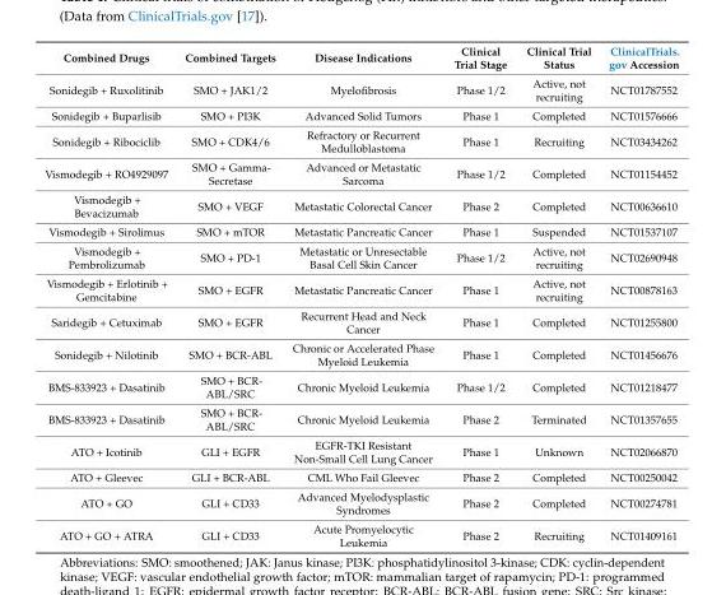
<table><thead><tr><td>Combined Drugs</td><td>Combined Targets</td><td>Disease Indications</td><td>Clinical Trial Stage</td><td>Clinical Trial Status</td><td>ClinicalTrials. gov Accession</td></tr></thead><tbody><tr><td>Sonidegib + Ruxolitinib</td><td>SMO + JAK1/2</td><td>Myelofibrosis</td><td>Phase 1/2</td><td>Active, not recruiting</td><td>NCT01787552</td></tr><tr><td>Sonidegib + Buparlisib</td><td>SMO + PI3K</td><td>Advanced Solid Tumors</td><td>Phase 1</td><td>Completed</td><td>NCT01576666</td></tr><tr><td>Sonidegib + Ribociclib</td><td>SMO + CDK4/6</td><td>Refractory or Recurrent Medulloblastoma</td><td>Phase 1</td><td>Recruiting</td><td>NCT03434262</td></tr><tr><td>Vismodegib + RO4929097</td><td>SMO + Gamma- Secretase</td><td>Advanced or Metastatic Sarcoma</td><td>Phase 1/2</td><td>Completed</td><td>NCT01154452</td></tr><tr><td>Vismodegib + Bevacizumab</td><td>SMO + VEGF</td><td>Metastatic Colorectal Cancer</td><td>Phase 2</td><td>Completed</td><td>NCT00636610</td></tr><tr><td>Vismodegib + Sirolimus</td><td>SMO + mTOR</td><td>Metastatic Pancreatic Cancer</td><td>Phase 1</td><td>Suspended</td><td>NCT01537107</td></tr><tr><td>Vismodegib + Pembrolizumab</td><td>SMO + PD-1</td><td>Metastatic or Unresectable Basal Cell Skin Cancer</td><td>Phase 1/2</td><td>Active, not recruiting</td><td>NCT02690948</td></tr><tr><td>Vismodegib + Erlotinib + Gemcitabine</td><td>SMO + EGFR</td><td>Metastatic Pancreatic Cancer</td><td>Phase 1</td><td>Active, not recruiting</td><td>NCT00878163</td></tr><tr><td>Saridegib + Cetuximab</td><td>SMO + EGFR</td><td>Recurrent Head and Neck Cancer</td><td>Phase 1</td><td>Completed</td><td>NCT01255800</td></tr><tr><td>Sonidegib + Nilotinib</td><td>SMO + BCR-ABL</td><td>Chronic or Accelerated Phase Myeloid Leukemia</td><td>Phase 1</td><td>Completed</td><td>NCT01456676</td></tr><tr><td>BMS-833923 + Dasatinib</td><td>SMO + BCR- ABL/SRC</td><td>Chronic Myeloid Leukemia</td><td>Phase 1/2</td><td>Completed</td><td>NCT01218477</td></tr><tr><td>BMS-833923 + Dasatinib</td><td>SMO + BCR- ABL/SRC</td><td>Chronic Myeloid Leukemia</td><td>Phase 2</td><td>Terminated</td><td>NCT01357655</td></tr><tr><td>ATO + Icotinib</td><td>GLI + EGFR</td><td>EGFR-TKI Resistant Non-Small Cell Lung Cancer</td><td>Phase 1</td><td>Unknown</td><td>NCT02066870</td></tr><tr><td>ATO + Gleevec</td><td>GLI + BCR-ABL</td><td>CML Who Fail Gleevec</td><td>Phase 2</td><td>Completed</td><td>NCT00250042</td></tr><tr><td>ATO + GO</td><td>GLI + CD33</td><td>Advanced Myelodysplastic Syndromes</td><td>Phase 2</td><td>Completed</td><td>NCT00274781</td></tr><tr><td>ATO + GO + ATRA</td><td>GLI + CD33</td><td>Acute Promyelocytic Leukemia</td><td>Phase 2</td><td>Recruiting</td><td>NCT01409161</td></tr></tbody></table>